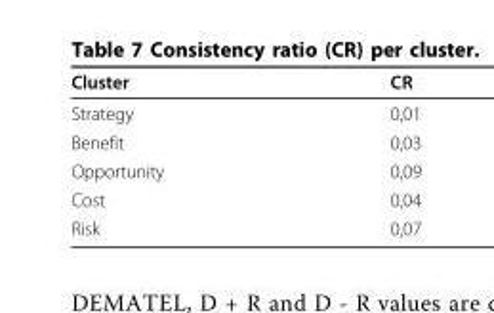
<table><thead><tr><td>Cluster</td><td>CR</td></tr></thead><tbody><tr><td>Strategy</td><td>0,01</td></tr><tr><td>Benefit</td><td>0,03</td></tr><tr><td>Opportunity</td><td>0,09</td></tr><tr><td>Cost</td><td>0,04</td></tr><tr><td>Risk</td><td>0,07</td></tr></tbody></table>